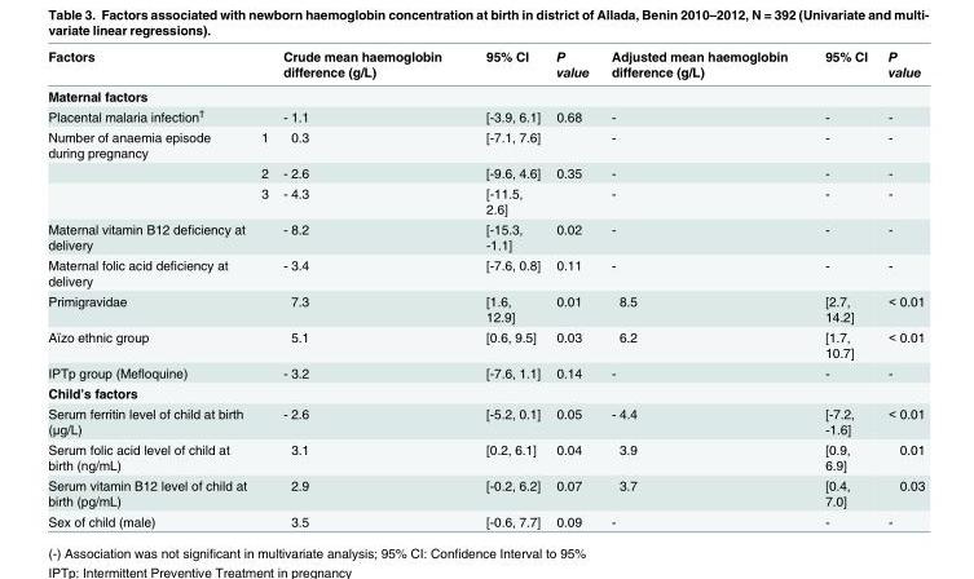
<table><thead><tr><td>Factors</td><td></td><td>Crude mean haemoglobin difference (g/L)</td><td>95% CI</td><td>P value</td><td>Adjusted mean haemoglobin difference (g/L)</td><td>95% CI</td><td>P value</td></tr></thead><tbody><tr><td colspan="8">Maternal factors</td></tr><tr><td>Placental malaria infection<sup>†</sup></td><td></td><td>- 1.1</td><td>[-3.9, 6.1]</td><td>0.68</td><td>-</td><td>-</td><td>-</td></tr><tr><td rowspan="3">Number of anaemia episode during pregnancy</td><td>1</td><td>0.3</td><td>[-7.1, 7.6]</td><td></td><td>-</td><td>-</td><td>-</td></tr><tr><td>2</td><td>- 2.6</td><td>[-9.6, 4.6]</td><td>0.35</td><td>-</td><td>-</td><td>-</td></tr><tr><td>3</td><td>- 4.3</td><td>[-11.5, 2.6]</td><td></td><td>-</td><td>-</td><td>-</td></tr><tr><td>Maternal vitamin B12 deficiency at delivery</td><td></td><td>- 8.2</td><td>[-15.3, -1.1]</td><td>0.02</td><td>-</td><td>-</td><td>-</td></tr><tr><td>Maternal folic acid deficiency at delivery</td><td></td><td>- 3.4</td><td>[-7.6, 0.8]</td><td>0.11</td><td>-</td><td>-</td><td>-</td></tr><tr><td>Primigravidae</td><td></td><td>7.3</td><td>[1.6, 12.9]</td><td>0.01</td><td>8.5</td><td>[2.7, 14.2]</td><td>&lt; 0.01</td></tr><tr><td>Aïzo ethnic group</td><td></td><td>5.1</td><td>[0.6, 9.5]</td><td>0.03</td><td>6.2</td><td>[1.7, 10.7]</td><td>&lt; 0.01</td></tr><tr><td>IPTp group (Mefloquine)</td><td></td><td>- 3.2</td><td>[-7.6, 1.1]</td><td>0.14</td><td>-</td><td>-</td><td>-</td></tr><tr><td colspan="8">Child’s factors</td></tr><tr><td>Serum ferritin level of child at birth (μg/L)</td><td></td><td>- 2.6</td><td>[-5.2, 0.1]</td><td>0.05</td><td>- 4.4</td><td>[-7.2, -1.6]</td><td>&lt; 0.01</td></tr><tr><td>Serum folic acid level of child at birth (ng/mL)</td><td></td><td>3.1</td><td>[0.2, 6.1]</td><td>0.04</td><td>3.9</td><td>[0.9, 6.9]</td><td>0.01</td></tr><tr><td>Serum vitamin B12 level of child at birth (pg/mL)</td><td></td><td>2.9</td><td>[-0.2, 6.2]</td><td>0.07</td><td>3.7</td><td>[0.4, 7.0]</td><td>0.03</td></tr><tr><td>Sex of child (male)</td><td></td><td>3.5</td><td>[-0.6, 7.7]</td><td>0.09</td><td>-</td><td>-</td><td>-</td></tr></tbody></table>